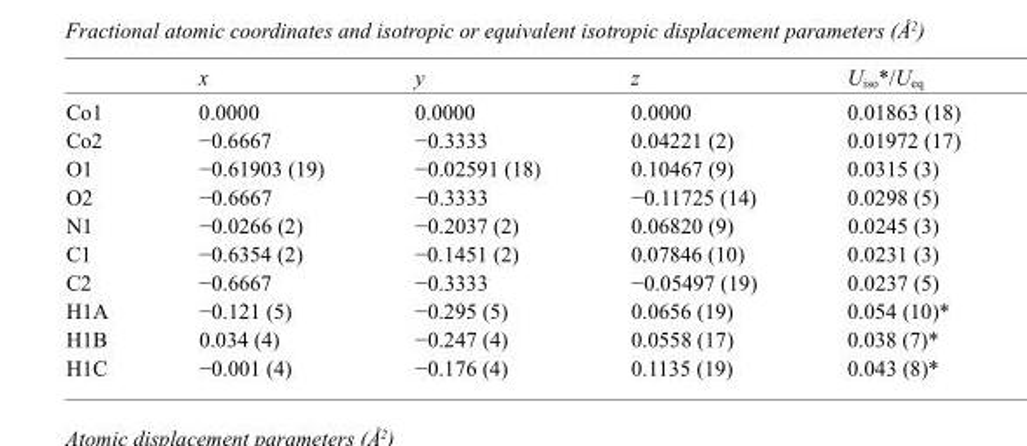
<table><thead><tr><td></td><td>x</td><td>y</td><td>z</td><td>U<sub>iso</sub>*/U<sub>eq</sub></td></tr></thead><tbody><tr><td>Co1</td><td>0.0000</td><td>0.0000</td><td>0.0000</td><td>0.01863 (18)</td></tr><tr><td>Co2</td><td>−0.6667</td><td>−0.3333</td><td>0.04221 (2)</td><td>0.01972 (17)</td></tr><tr><td>O1</td><td>−0.61903 (19)</td><td>−0.02591 (18)</td><td>0.10467 (9)</td><td>0.0315 (3)</td></tr><tr><td>O2</td><td>−0.6667</td><td>−0.3333</td><td>−0.11725 (14)</td><td>0.0298 (5)</td></tr><tr><td>N1</td><td>−0.0266 (2)</td><td>−0.2037 (2)</td><td>0.06820 (9)</td><td>0.0245 (3)</td></tr><tr><td>C1</td><td>−0.6354 (2)</td><td>−0.1451 (2)</td><td>0.07846 (10)</td><td>0.0231 (3)</td></tr><tr><td>C2</td><td>−0.6667</td><td>−0.3333</td><td>−0.05497 (19)</td><td>0.0237 (5)</td></tr><tr><td>H1A</td><td>−0.121 (5)</td><td>−0.295 (5)</td><td>0.0656 (19)</td><td>0.054 (10)*</td></tr><tr><td>H1B</td><td>0.034 (4)</td><td>−0.247 (4)</td><td>0.0558 (17)</td><td>0.038 (7)*</td></tr><tr><td>H1C</td><td>−0.001 (4)</td><td>−0.176 (4)</td><td>0.1135 (19)</td><td>0.043 (8)*</td></tr></tbody></table>